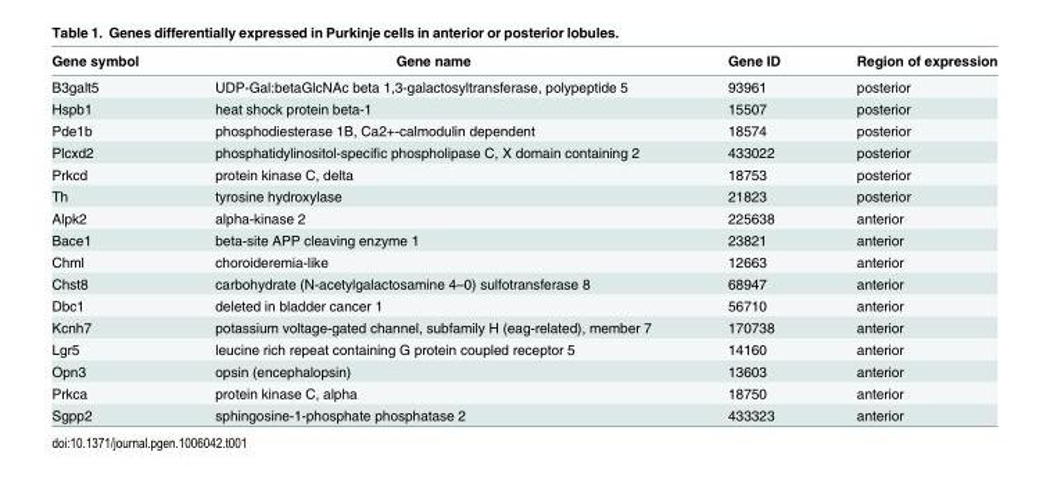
<table><thead><tr><td>Gene symbol</td><td>Gene name</td><td>Gene ID</td><td>Region of expression</td></tr></thead><tbody><tr><td>B3galt5</td><td>UDP-Gal:betaGlcNAc beta 1,3-galactosyltransferase, polypeptide 5</td><td>93961</td><td>posterior</td></tr><tr><td>Hspb1</td><td>heat shock protein beta-1</td><td>15507</td><td>posterior</td></tr><tr><td>Pde1b</td><td>phosphodiesterase 1B, Ca2+-calmodulin dependent</td><td>18574</td><td>posterior</td></tr><tr><td>Plcxd2</td><td>phosphatidylinositol-specific phospholipase C, X domain containing 2</td><td>433022</td><td>posterior</td></tr><tr><td>Prkcd</td><td>protein kinase C, delta</td><td>18753</td><td>posterior</td></tr><tr><td>Th</td><td>tyrosine hydroxylase</td><td>21823</td><td>posterior</td></tr><tr><td>Alpk2</td><td>alpha-kinase 2</td><td>225638</td><td>anterior</td></tr><tr><td>Bace1</td><td>beta-site APP cleaving enzyme 1</td><td>23821</td><td>anterior</td></tr><tr><td>Chml</td><td>choroideremia-like</td><td>12663</td><td>anterior</td></tr><tr><td>Chst8</td><td>carbohydrate (N-acetylgalactosamine 4–0) sulfotransferase 8</td><td>68947</td><td>anterior</td></tr><tr><td>Dbc1</td><td>deleted in bladder cancer 1</td><td>56710</td><td>anterior</td></tr><tr><td>Kcnh7</td><td>potassium voltage-gated channel, subfamily H (eag-related), member 7</td><td>170738</td><td>anterior</td></tr><tr><td>Lgr5</td><td>leucine rich repeat containing G protein coupled receptor 5</td><td>14160</td><td>anterior</td></tr><tr><td>Opn3</td><td>opsin (encephalopsin)</td><td>13603</td><td>anterior</td></tr><tr><td>Prkca</td><td>protein kinase C, alpha</td><td>18750</td><td>anterior</td></tr><tr><td>Sgpp2</td><td>sphingosine-1-phosphate phosphatase 2</td><td>433323</td><td>anterior</td></tr></tbody></table>